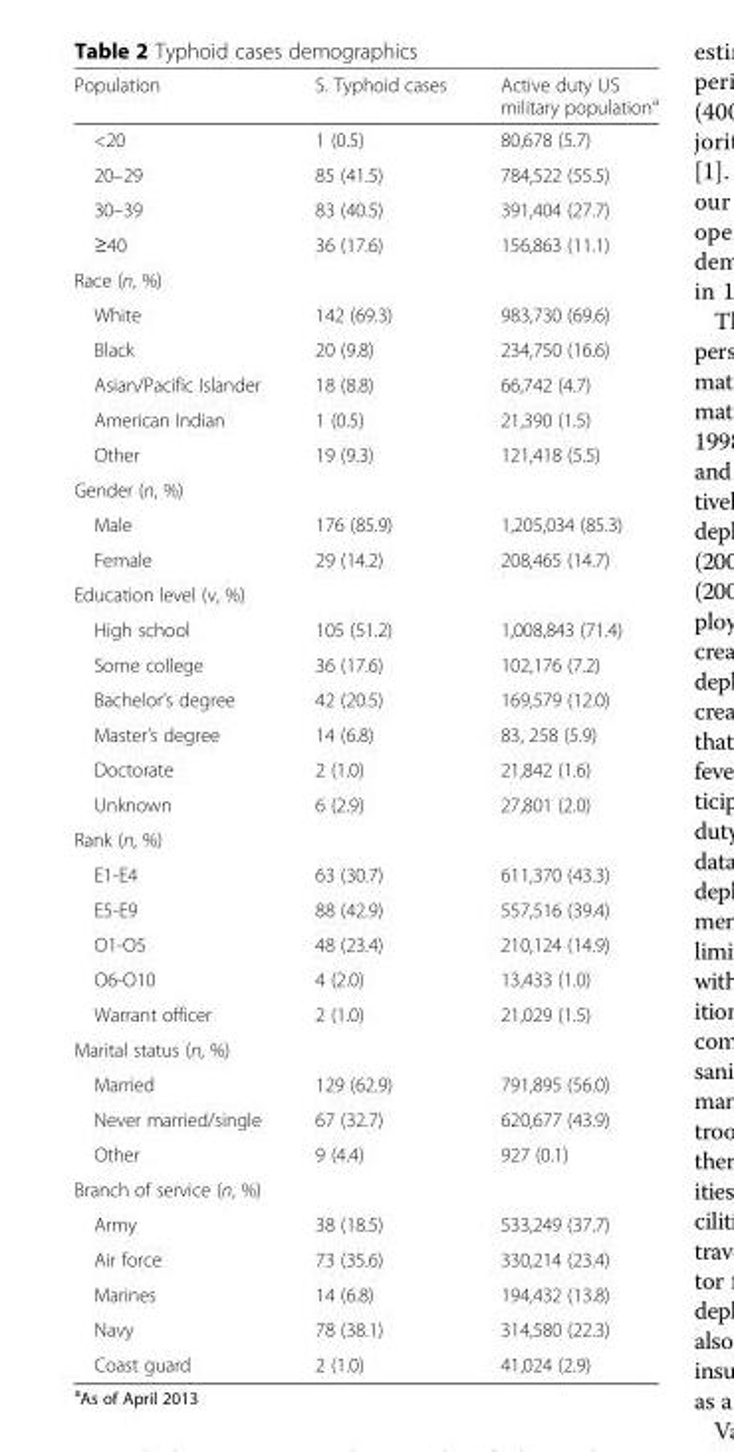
<table><thead><tr><td>Population</td><td>S. Typhoid cases</td><td>Active duty US military population<sup>a</sup></td></tr></thead><tbody><tr><td>&lt;20</td><td>1 (0.5)</td><td>80,678 (5.7)</td></tr><tr><td>20–29</td><td>85 (41.5)</td><td>784,522 (55.5)</td></tr><tr><td>30–39</td><td>83 (40.5)</td><td>391,404 (27.7)</td></tr><tr><td>≥40</td><td>36 (17.6)</td><td>156,863 (11.1)</td></tr><tr><td colspan="3">Race (n, %)</td></tr><tr><td>White</td><td>142 (69.3)</td><td>983,730 (69.6)</td></tr><tr><td>Black</td><td>20 (9.8)</td><td>234,750 (16.6)</td></tr><tr><td>Asian/Pacific Islander</td><td>18 (8.8)</td><td>66,742 (4.7)</td></tr><tr><td>American Indian</td><td>1 (0.5)</td><td>21,390 (1.5)</td></tr><tr><td>Other</td><td>19 (9.3)</td><td>121,418 (5.5)</td></tr><tr><td colspan="3">Gender (n, %)</td></tr><tr><td>Male</td><td>176 (85.9)</td><td>1,205,034 (85.3)</td></tr><tr><td>Female</td><td>29 (14.2)</td><td>208,465 (14.7)</td></tr><tr><td colspan="3">Education level (v, %)</td></tr><tr><td>High school</td><td>105 (51.2)</td><td>1,008,843 (71.4)</td></tr><tr><td>Some college</td><td>36 (17.6)</td><td>102,176 (7.2)</td></tr><tr><td>Bachelor’s degree</td><td>42 (20.5)</td><td>169,579 (12.0)</td></tr><tr><td>Master’s degree</td><td>14 (6.8)</td><td>83, 258 (5.9)</td></tr><tr><td>Doctorate</td><td>2 (1.0)</td><td>21,842 (1.6)</td></tr><tr><td>Unknown</td><td>6 (2.9)</td><td>27,801 (2.0)</td></tr><tr><td colspan="3">Rank (n, %)</td></tr><tr><td>E1-E4</td><td>63 (30.7)</td><td>611,370 (43.3)</td></tr><tr><td>E5-E9</td><td>88 (42.9)</td><td>557,516 (39.4)</td></tr><tr><td>O1-O5</td><td>48 (23.4)</td><td>210,124 (14.9)</td></tr><tr><td>O6-O10</td><td>4 (2.0)</td><td>13,433 (1.0)</td></tr><tr><td>Warrant officer</td><td>2 (1.0)</td><td>21,029 (1.5)</td></tr><tr><td colspan="3">Marital status (n, %)</td></tr><tr><td>Married</td><td>129 (62.9)</td><td>791,895 (56.0)</td></tr><tr><td>Never married/single</td><td>67 (32.7)</td><td>620,677 (43.9)</td></tr><tr><td>Other</td><td>9 (4.4)</td><td>927 (0.1)</td></tr><tr><td colspan="3">Branch of service (n, %)</td></tr><tr><td>Army</td><td>38 (18.5)</td><td>533,249 (37.7)</td></tr><tr><td>Air force</td><td>73 (35.6)</td><td>330,214 (23.4)</td></tr><tr><td>Marines</td><td>14 (6.8)</td><td>194,432 (13.8)</td></tr><tr><td>Navy</td><td>78 (38.1)</td><td>314,580 (22.3)</td></tr><tr><td>Coast guard</td><td>2 (1.0)</td><td>41,024 (2.9)</td></tr></tbody></table>